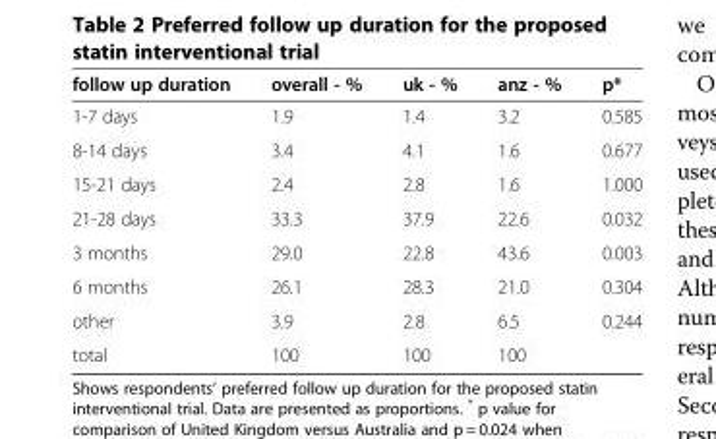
<table><thead><tr><td>follow up duration</td><td>overall - %</td><td>uk - %</td><td>anz - %</td><td>p*</td></tr></thead><tbody><tr><td>1-7 days</td><td>1.9</td><td>1.4</td><td>3.2</td><td>0.585</td></tr><tr><td>8-14 days</td><td>3.4</td><td>4.1</td><td>1.6</td><td>0.677</td></tr><tr><td>15-21 days</td><td>2.4</td><td>2.8</td><td>1.6</td><td>1.000</td></tr><tr><td>21-28 days</td><td>33.3</td><td>37.9</td><td>22.6</td><td>0.032</td></tr><tr><td>3 months</td><td>29.0</td><td>22.8</td><td>43.6</td><td>0.003</td></tr><tr><td>6 months</td><td>26.1</td><td>28.3</td><td>21.0</td><td>0.304</td></tr><tr><td>other</td><td>3.9</td><td>2.8</td><td>6.5</td><td>0.244</td></tr><tr><td>total</td><td>100</td><td>100</td><td>100</td><td></td></tr></tbody></table>